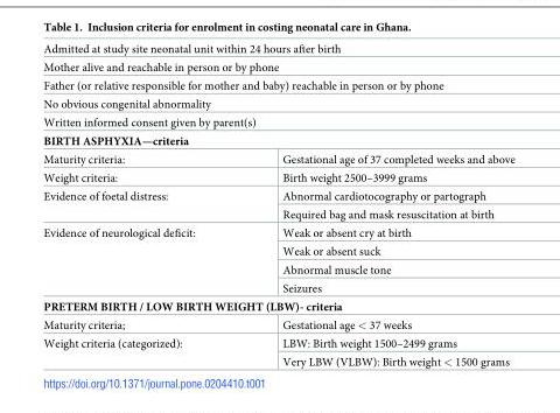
<table><tbody><tr><td colspan="2">Admitted at study site neonatal unit within 24 hours after birth</td></tr><tr><td colspan="2">Mother alive and reachable in person or by phone</td></tr><tr><td colspan="2">Father (or relative responsible for mother and baby) reachable in person or by phone</td></tr><tr><td colspan="2">No obvious congenital abnormality</td></tr><tr><td colspan="2">Written informed consent given by parent(s)</td></tr><tr><td colspan="2">BIRTH ASPHYXIA—criteria</td></tr><tr><td>Maturity criteria:</td><td>Gestational age of 37 completed weeks and above</td></tr><tr><td>Weight criteria:</td><td>Birth weight 2500–3999 grams</td></tr><tr><td rowspan="2">Evidence of foetal distress:</td><td>Abnormal cardiotocography or partograph</td></tr><tr><td>Required bag and mask resuscitation at birth</td></tr><tr><td rowspan="4">Evidence of neurological deficit:</td><td>Weak or absent cry at birth</td></tr><tr><td>Weak or absent suck</td></tr><tr><td>Abnormal muscle tone</td></tr><tr><td>Seizures</td></tr><tr><td colspan="2">PRETERM BIRTH / LOW BIRTH WEIGHT (LBW)- criteria</td></tr><tr><td>Maturity criteria;</td><td>Gestational age &lt; 37 weeks</td></tr><tr><td rowspan="2">Weight criteria (categorized):</td><td>LBW: Birth weight 1500–2499 grams</td></tr><tr><td>Very LBW (VLBW): Birth weight &lt; 1500 grams</td></tr></tbody></table>